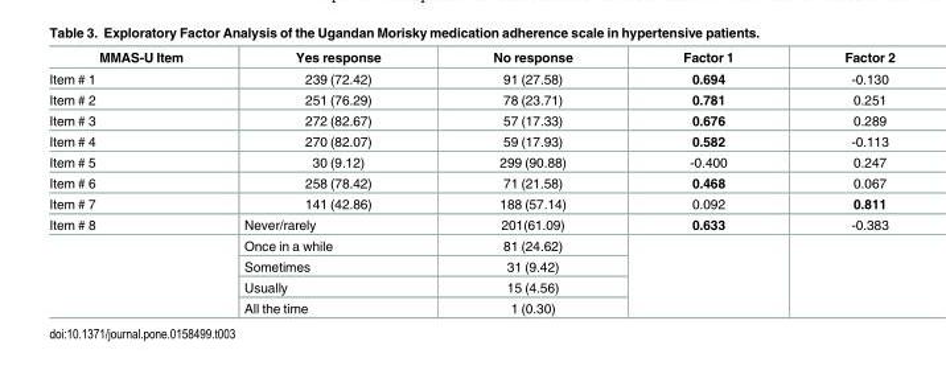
<table><thead><tr><td>MMAS-U Item</td><td>Yes response</td><td>No response</td><td>Factor 1</td><td>Factor 2</td></tr></thead><tbody><tr><td>Item # 1</td><td>239 (72.42)</td><td>91 (27.58)</td><td>0.694</td><td>-0.130</td></tr><tr><td>Item # 2</td><td>251 (76.29)</td><td>78 (23.71)</td><td>0.781</td><td>0.251</td></tr><tr><td>Item # 3</td><td>272 (82.67)</td><td>57 (17.33)</td><td>0.676</td><td>0.289</td></tr><tr><td>Item # 4</td><td>270 (82.07)</td><td>59 (17.93)</td><td>0.582</td><td>-0.113</td></tr><tr><td>Item # 5</td><td>30 (9.12)</td><td>299 (90.88)</td><td>-0.400</td><td>0.247</td></tr><tr><td>Item # 6</td><td>258 (78.42)</td><td>71 (21.58)</td><td>0.468</td><td>0.067</td></tr><tr><td>Item # 7</td><td>141 (42.86)</td><td>188 (57.14)</td><td>0.092</td><td>0.811</td></tr><tr><td rowspan="5">Item # 8</td><td>Never/rarely</td><td>201(61.09)</td><td>0.633</td><td>-0.383</td></tr><tr><td>Once in a while</td><td>81 (24.62)</td><td rowspan="4"></td><td rowspan="4"></td></tr><tr><td>Sometimes</td><td>31 (9.42)</td></tr><tr><td>Usually</td><td>15 (4.56)</td></tr><tr><td>All the time</td><td>1 (0.30)</td></tr></tbody></table>